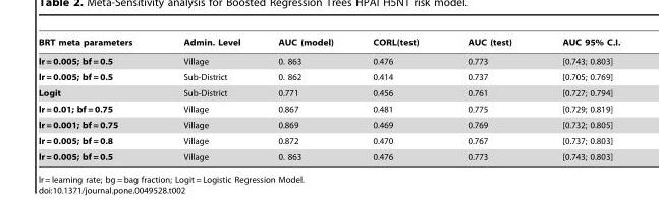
<table><thead><tr><td>BRT meta parameters</td><td>Admin. Level</td><td>AUC (model)</td><td>CORL(test)</td><td>AUC (test)</td><td>AUC 95% C.I.</td></tr></thead><tbody><tr><td>lr = 0.005; bf = 0.5</td><td>Village</td><td>0. 863</td><td>0.476</td><td>0.773</td><td>[0.743; 0.803]</td></tr><tr><td>lr = 0.005; bf = 0.5</td><td>Sub-District</td><td>0. 862</td><td>0.414</td><td>0.737</td><td>[0.705; 0.769]</td></tr><tr><td>Logit</td><td>Sub-District</td><td>0.771</td><td>0.456</td><td>0.761</td><td>[0.727; 0.794]</td></tr><tr><td>lr = 0.01; bf = 0.75</td><td>Village</td><td>0.867</td><td>0.481</td><td>0.775</td><td>[0.729; 0.819]</td></tr><tr><td>lr = 0.001; bf = 0.75</td><td>Village</td><td>0.869</td><td>0.469</td><td>0.769</td><td>[0.732; 0.805]</td></tr><tr><td>lr = 0.005; bf = 0.8</td><td>Village</td><td>0.872</td><td>0.470</td><td>0.767</td><td>[0.737; 0.803]</td></tr><tr><td>lr = 0.005; bf = 0.5</td><td>Village</td><td>0. 863</td><td>0.476</td><td>0.773</td><td>[0.743; 0.803]</td></tr></tbody></table>